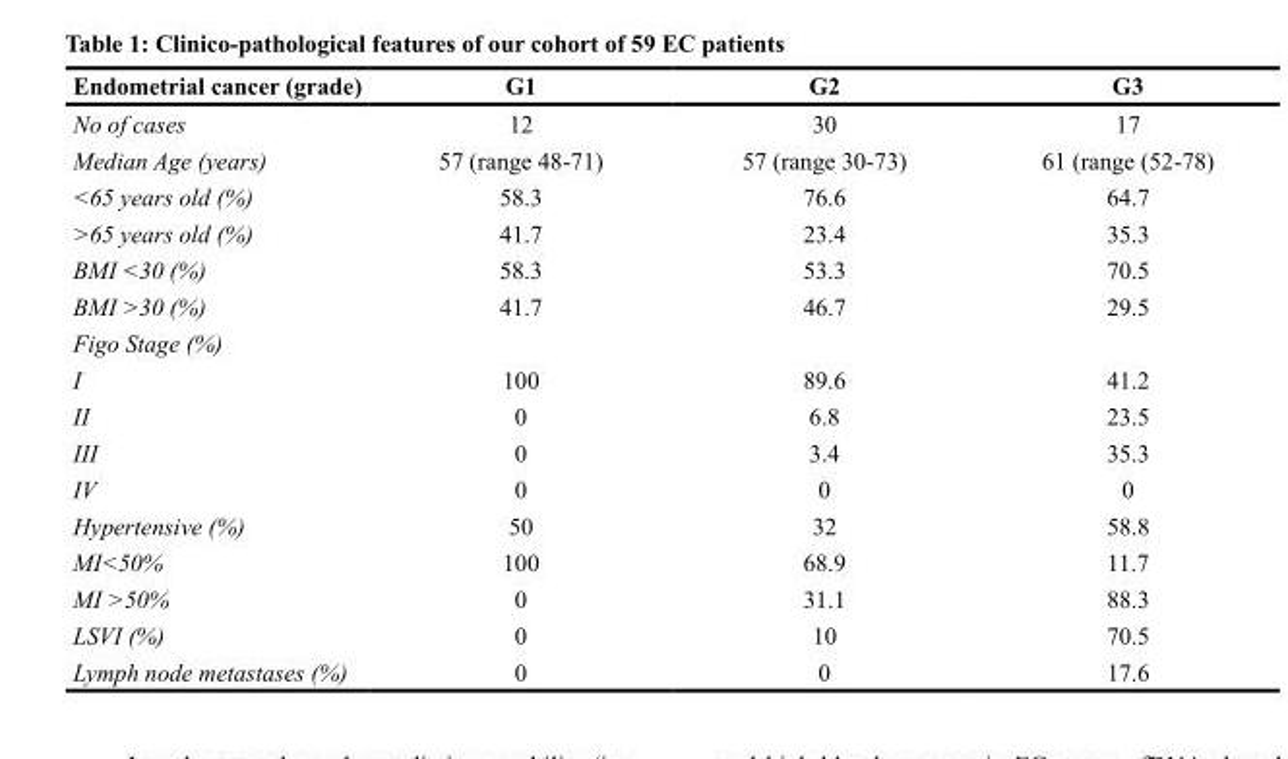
<table><thead><tr><td>Endometrial cancer (grade)</td><td>G1</td><td>G2</td><td>G3</td></tr></thead><tbody><tr><td>No of cases</td><td>12</td><td>30</td><td>17</td></tr><tr><td>Median Age (years)</td><td>57 (range 48-71)</td><td>57 (range 30-73)</td><td>61 (range (52-78)</td></tr><tr><td>&lt;65 years old (%)</td><td>58.3</td><td>76.6</td><td>64.7</td></tr><tr><td>&gt;65 years old (%)</td><td>41.7</td><td>23.4</td><td>35.3</td></tr><tr><td>BMI &lt;30 (%)</td><td>58.3</td><td>53.3</td><td>70.5</td></tr><tr><td>BMI &gt;30 (%)</td><td>41.7</td><td>46.7</td><td>29.5</td></tr><tr><td colspan="4">Figo Stage (%)</td></tr><tr><td>I</td><td>100</td><td>89.6</td><td>41.2</td></tr><tr><td>II</td><td>0</td><td>6.8</td><td>23.5</td></tr><tr><td>III</td><td>0</td><td>3.4</td><td>35.3</td></tr><tr><td>IV</td><td>0</td><td>0</td><td>0</td></tr><tr><td>Hypertensive (%)</td><td>50</td><td>32</td><td>58.8</td></tr><tr><td>MI&lt;50%</td><td>100</td><td>68.9</td><td>11.7</td></tr><tr><td>MI &gt;50%</td><td>0</td><td>31.1</td><td>88.3</td></tr><tr><td>LSVI (%)</td><td>0</td><td>10</td><td>70.5</td></tr><tr><td>Lymph node metastases (%)</td><td>0</td><td>0</td><td>17.6</td></tr></tbody></table>